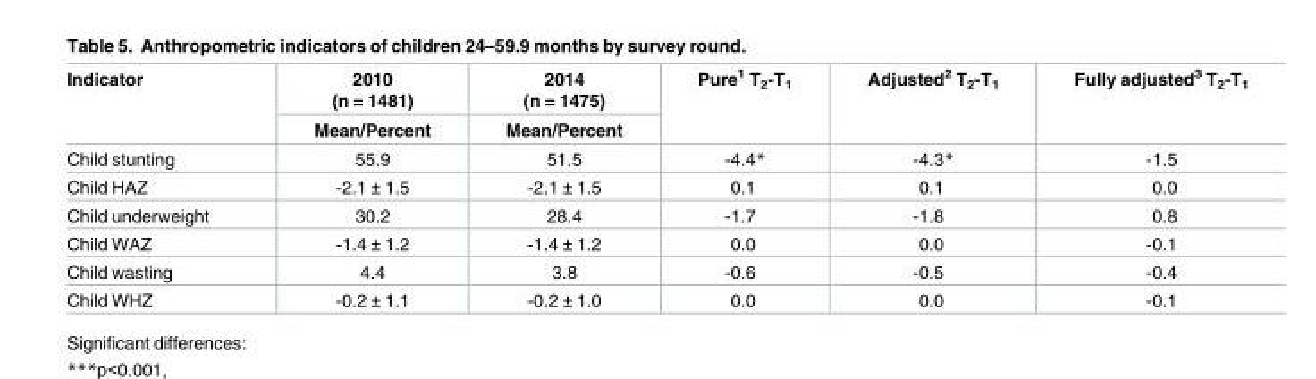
<table><thead><tr><td rowspan="2">Indicator</td><td rowspan="2">2010 (n = 1481) Mean/Percent</td><td rowspan="2">2014 (n = 1475) Mean/Percent</td><td rowspan="2">Pure<sup>1</sup> T<sub>2</sub>-T<sub>1</sub></td><td rowspan="2">Adjusted<sup>2</sup> T<sub>2</sub>-T<sub>1</sub></td><td rowspan="2">Fully adjusted<sup>3</sup> T<sub>2</sub>-T<sub>1</sub></td></tr><tr></tr></thead><tbody><tr><td>Child stunting</td><td>55.9</td><td>51.5</td><td>-4.4*</td><td>-4.3*</td><td>-1.5</td></tr><tr><td>Child HAZ</td><td>-2.1 ± 1.5</td><td>-2.1 ± 1.5</td><td>0.1</td><td>0.1</td><td>0.0</td></tr><tr><td>Child underweight</td><td>30.2</td><td>28.4</td><td>-1.7</td><td>-1.8</td><td>0.8</td></tr><tr><td>Child WAZ</td><td>-1.4 ± 1.2</td><td>-1.4 ± 1.2</td><td>0.0</td><td>0.0</td><td>-0.1</td></tr><tr><td>Child wasting</td><td>4.4</td><td>3.8</td><td>-0.6</td><td>-0.5</td><td>-0.4</td></tr><tr><td>Child WHZ</td><td>-0.2 ± 1.1</td><td>-0.2 ± 1.0</td><td>0.0</td><td>0.0</td><td>-0.1</td></tr></tbody></table>